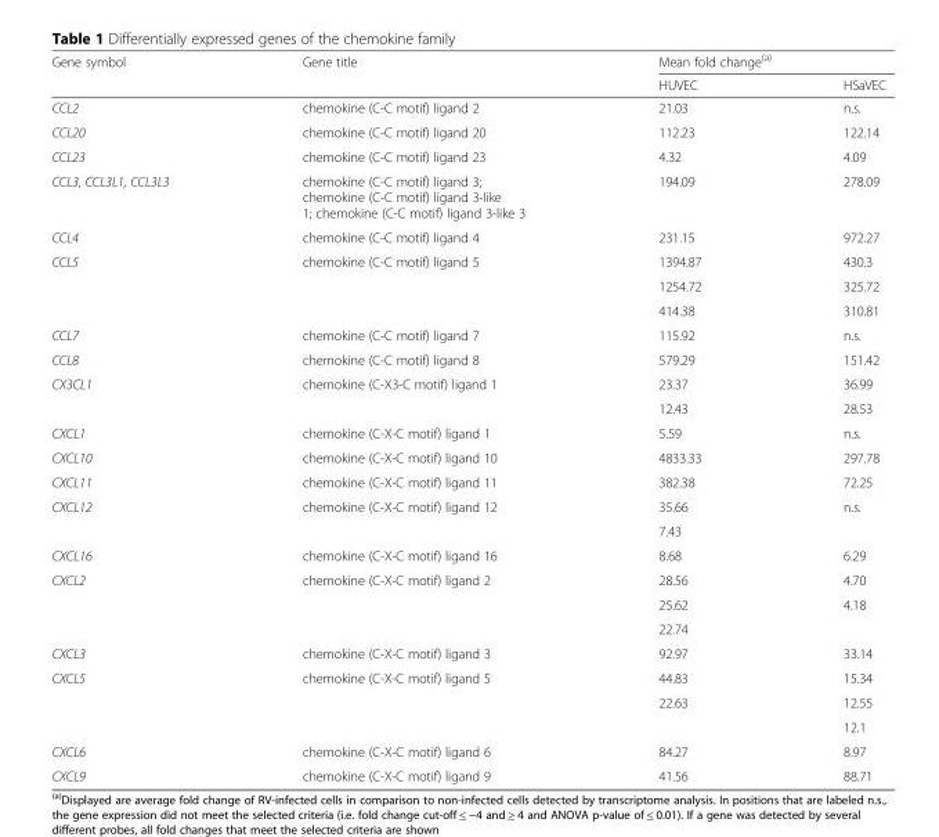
<table><thead><tr><td rowspan="2">Gene symbol</td><td rowspan="2">Gene title</td><td colspan="2">Mean fold change<sup>(a)</sup></td></tr><tr><td>HUVEC</td><td>HSaVEC</td></tr></thead><tbody><tr><td>CCL2</td><td>chemokine (C-C motif) ligand 2</td><td>21.03</td><td>n.s.</td></tr><tr><td>CCL20</td><td>chemokine (C-C motif) ligand 20</td><td>112.23</td><td>122.14</td></tr><tr><td>CCL23</td><td>chemokine (C-C motif) ligand 23</td><td>4.32</td><td>4.09</td></tr><tr><td>CCL3, CCL3L1, CCL3L3</td><td>chemokine (C-C motif) ligand 3; chemokine (C-C motif) ligand 3-like 1; chemokine (C-C motif) ligand 3-like 3</td><td>194.09</td><td>278.09</td></tr><tr><td>CCL4</td><td>chemokine (C-C motif) ligand 4</td><td>231.15</td><td>972.27</td></tr><tr><td rowspan="3">CCL5</td><td rowspan="3">chemokine (C-C motif) ligand 5</td><td>1394.87</td><td>430.3</td></tr><tr><td>1254.72</td><td>325.72</td></tr><tr><td>414.38</td><td>310.81</td></tr><tr><td>CCL7</td><td>chemokine (C-C motif) ligand 7</td><td>115.92</td><td>n.s.</td></tr><tr><td>CCL8</td><td>chemokine (C-C motif) ligand 8</td><td>579.29</td><td>151.42</td></tr><tr><td rowspan="2">CX3CL1</td><td rowspan="2">chemokine (C-X3-C motif) ligand 1</td><td>23.37</td><td>36.99</td></tr><tr><td>12.43</td><td>28.53</td></tr><tr><td>CXCL1</td><td>chemokine (C-X-C motif) ligand 1</td><td>5.59</td><td>n.s.</td></tr><tr><td>CXCL10</td><td>chemokine (C-X-C motif) ligand 10</td><td>4833.33</td><td>297.78</td></tr><tr><td>CXCL11</td><td>chemokine (C-X-C motif) ligand 11</td><td>382.38</td><td>72.25</td></tr><tr><td rowspan="2">CXCL12</td><td rowspan="2">chemokine (C-X-C motif) ligand 12</td><td>35.66</td><td rowspan="2">n.s.</td></tr><tr><td>7.43</td></tr><tr><td>CXCL16</td><td>chemokine (C-X-C motif) ligand 16</td><td>8.68</td><td>6.29</td></tr><tr><td rowspan="3">CXCL2</td><td rowspan="3">chemokine (C-X-C motif) ligand 2</td><td>28.56</td><td>4.70</td></tr><tr><td>25.62</td><td>4.18</td></tr><tr><td>22.74</td><td></td></tr><tr><td>CXCL3</td><td>chemokine (C-X-C motif) ligand 3</td><td>92.97</td><td>33.14</td></tr><tr><td rowspan="3">CXCL5</td><td rowspan="3">chemokine (C-X-C motif) ligand 5</td><td>44.83</td><td>15.34</td></tr><tr><td>22.63</td><td>12.55</td></tr><tr><td></td><td>12.1</td></tr><tr><td>CXCL6</td><td>chemokine (C-X-C motif) ligand 6</td><td>84.27</td><td>8.97</td></tr><tr><td>CXCL9</td><td>chemokine (C-X-C motif) ligand 9</td><td>41.56</td><td>88.71</td></tr></tbody></table>